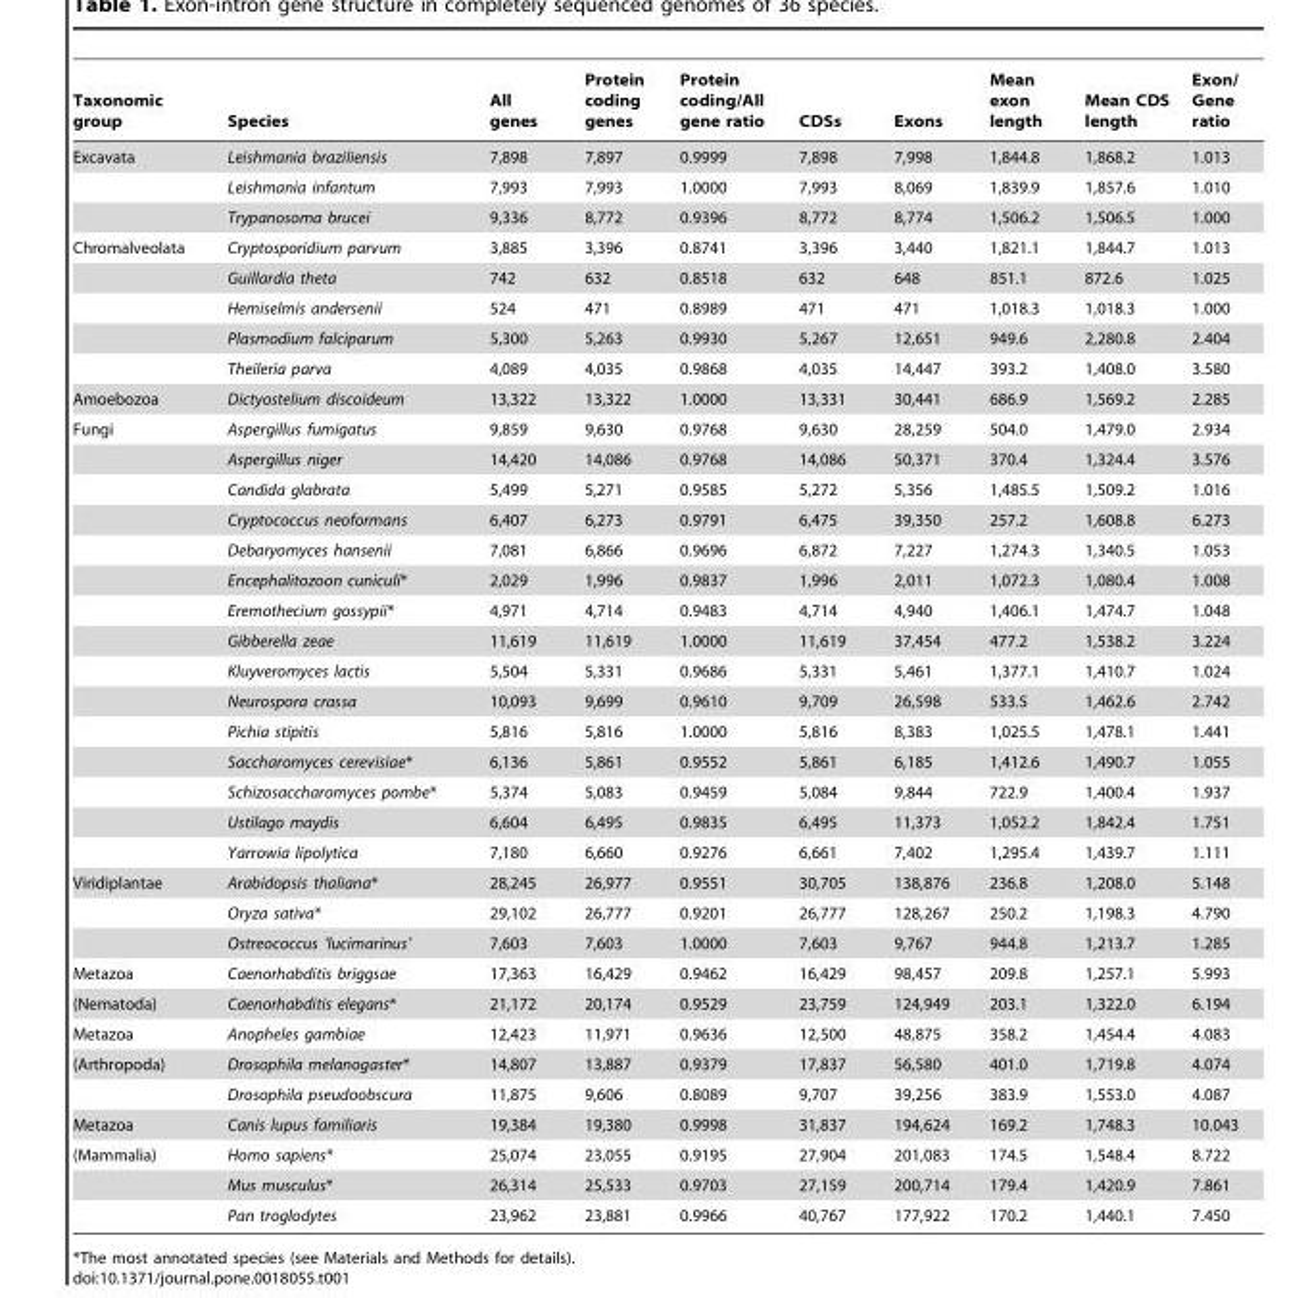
<table><thead><tr><td>Taxonomic group</td><td>Species</td><td>All genes</td><td>Protein coding genes</td><td>Protein coding/All gene ratio</td><td>CDSs</td><td>Exons</td><td>Mean exon length</td><td>Mean CDS length</td><td>Exon/ Gene ratio</td></tr></thead><tbody><tr><td rowspan="3">Excavata</td><td>Leishmania braziliensis</td><td>7,898</td><td>7,897</td><td>0.9999</td><td>7,898</td><td>7,998</td><td>1,844.8</td><td>1,868.2</td><td>1.013</td></tr><tr><td>Leishmania infantum</td><td>7,993</td><td>7,993</td><td>1.0000</td><td>7,993</td><td>8,069</td><td>1,839.9</td><td>1,857.6</td><td>1.010</td></tr><tr><td>Trypanosoma brucei</td><td>9,336</td><td>8,772</td><td>0.9396</td><td>8,772</td><td>8,774</td><td>1,506.2</td><td>1,506.5</td><td>1.000</td></tr><tr><td rowspan="5">Chromalveolata</td><td>Cryptosporidium parvum</td><td>3,885</td><td>3,396</td><td>0.8741</td><td>3,396</td><td>3,440</td><td>1,821.1</td><td>1,844.7</td><td>1.013</td></tr><tr><td>Guillardia theta</td><td>742</td><td>632</td><td>0.8518</td><td>632</td><td>648</td><td>851.1</td><td>872.6</td><td>1.025</td></tr><tr><td>Hemiselmis andersenii</td><td>524</td><td>471</td><td>0.8989</td><td>471</td><td>471</td><td>1,018.3</td><td>1,018.3</td><td>1.000</td></tr><tr><td>Plasmodium falciparum</td><td>5,300</td><td>5,263</td><td>0.9930</td><td>5,267</td><td>12,651</td><td>949.6</td><td>2,280.8</td><td>2.404</td></tr><tr><td>Theileria parva</td><td>4,089</td><td>4,035</td><td>0.9868</td><td>4,035</td><td>14,447</td><td>393.2</td><td>1,408.0</td><td>3.580</td></tr><tr><td>Amoebozoa</td><td>Dictyostelium discoideum</td><td>13,322</td><td>13,322</td><td>1.0000</td><td>13,331</td><td>30,441</td><td>686.9</td><td>1,569.2</td><td>2.285</td></tr><tr><td rowspan="15">Fungi</td><td>Aspergillus fumigatus</td><td>9,859</td><td>9,630</td><td>0.9768</td><td>9,630</td><td>28,259</td><td>504.0</td><td>1,479.0</td><td>2.934</td></tr><tr><td>Aspergillus niger</td><td>14,420</td><td>14,086</td><td>0.9768</td><td>14,086</td><td>50,371</td><td>370.4</td><td>1,324.4</td><td>3.576</td></tr><tr><td>Candida glabrata</td><td>5,499</td><td>5,271</td><td>0.9585</td><td>5,272</td><td>5,356</td><td>1,485.5</td><td>1,509.2</td><td>1.016</td></tr><tr><td>Cryptococcus neoformans</td><td>6,407</td><td>6,273</td><td>0.9791</td><td>6,475</td><td>39,350</td><td>257.2</td><td>1,608.8</td><td>6.273</td></tr><tr><td>Debaryomyces hansenii</td><td>7,081</td><td>6,866</td><td>0.9696</td><td>6,872</td><td>7,227</td><td>1,274.3</td><td>1,340.5</td><td>1.053</td></tr><tr><td>Encephalitozoon cuniculi*</td><td>2,029</td><td>1,996</td><td>0.9837</td><td>1,996</td><td>2,011</td><td>1,072.3</td><td>1,080.4</td><td>1.008</td></tr><tr><td>Eremothecium gossypii*</td><td>4,971</td><td>4,714</td><td>0.9483</td><td>4,714</td><td>4,940</td><td>1,406.1</td><td>1,474.7</td><td>1.048</td></tr><tr><td>Gibberella zeae</td><td>11,619</td><td>11,619</td><td>1.0000</td><td>11,619</td><td>37,454</td><td>477.2</td><td>1,538.2</td><td>3.224</td></tr><tr><td>Kluyveromyces lactis</td><td>5,504</td><td>5,331</td><td>0.9686</td><td>5,331</td><td>5,461</td><td>1,377.1</td><td>1,410.7</td><td>1.024</td></tr><tr><td>Neurospora crassa</td><td>10,093</td><td>9,699</td><td>0.9610</td><td>9,709</td><td>26,598</td><td>533.5</td><td>1,462.6</td><td>2.742</td></tr><tr><td>Pichia stipitis</td><td>5,816</td><td>5,816</td><td>1.0000</td><td>5,816</td><td>8,383</td><td>1,025.5</td><td>1,478.1</td><td>1.441</td></tr><tr><td>Saccharomyces cerevisiae*</td><td>6,136</td><td>5,861</td><td>0.9552</td><td>5,861</td><td>6,185</td><td>1,412.6</td><td>1,490.7</td><td>1.055</td></tr><tr><td>Schizosaccharomyces pombe*</td><td>5,374</td><td>5,083</td><td>0.9459</td><td>5,084</td><td>9,844</td><td>722.9</td><td>1,400.4</td><td>1.937</td></tr><tr><td>Ustilago maydis</td><td>6,604</td><td>6,495</td><td>0.9835</td><td>6,495</td><td>11,373</td><td>1,052.2</td><td>1,842.4</td><td>1.751</td></tr><tr><td>Yarrowia lipolytica</td><td>7,180</td><td>6,660</td><td>0.9276</td><td>6,661</td><td>7,402</td><td>1,295.4</td><td>1,439.7</td><td>1.111</td></tr><tr><td rowspan="3">Viridiplantae</td><td>Arabidopsis thaliana*</td><td>28,245</td><td>26,977</td><td>0.9551</td><td>30,705</td><td>138,876</td><td>236.8</td><td>1,208.0</td><td>5.148</td></tr><tr><td>Oryza sativa*</td><td>29,102</td><td>26,777</td><td>0.9201</td><td>26,777</td><td>128,267</td><td>250.2</td><td>1,198.3</td><td>4.790</td></tr><tr><td>Ostreococcus ‘lucimarinus’</td><td>7,603</td><td>7,603</td><td>1.0000</td><td>7,603</td><td>9,767</td><td>944.8</td><td>1,213.7</td><td>1.285</td></tr><tr><td>Metazoa</td><td>Caenorhabditis briggsae</td><td>17,363</td><td>16,429</td><td>0.9462</td><td>16,429</td><td>98,457</td><td>209.8</td><td>1,257.1</td><td>5.993</td></tr><tr><td>(Nematoda)</td><td>Caenorhabditis elegans*</td><td>21,172</td><td>20,174</td><td>0.9529</td><td>23,759</td><td>124,949</td><td>203.1</td><td>1,322.0</td><td>6.194</td></tr><tr><td>Metazoa</td><td>Anopheles gambiae</td><td>12,423</td><td>11,971</td><td>0.9636</td><td>12,500</td><td>48,875</td><td>358.2</td><td>1,454.4</td><td>4.083</td></tr><tr><td rowspan="2">(Arthropoda)</td><td>Drosophila melanogaster*</td><td>14,807</td><td>13,887</td><td>0.9379</td><td>17,837</td><td>56,580</td><td>401.0</td><td>1,719.8</td><td>4.074</td></tr><tr><td>Drosophila pseudoobscura</td><td>11,875</td><td>9,606</td><td>0.8089</td><td>9,707</td><td>39,256</td><td>383.9</td><td>1,553.0</td><td>4.087</td></tr><tr><td>Metazoa</td><td>Canis lupus familiaris</td><td>19,384</td><td>19,380</td><td>0.9998</td><td>31,837</td><td>194,624</td><td>169.2</td><td>1,748.3</td><td>10.043</td></tr><tr><td rowspan="3">(Mammalia)</td><td>Homo sapiens*</td><td>25,074</td><td>23,055</td><td>0.9195</td><td>27,904</td><td>201,083</td><td>174.5</td><td>1,548.4</td><td>8.722</td></tr><tr><td>Mus musculus*</td><td>26,314</td><td>25,533</td><td>0.9703</td><td>27,159</td><td>200,714</td><td>179.4</td><td>1,420.9</td><td>7.861</td></tr><tr><td>Pan troglodytes</td><td>23,962</td><td>23,881</td><td>0.9966</td><td>40,767</td><td>177,922</td><td>170.2</td><td>1,440.1</td><td>7.450</td></tr></tbody></table>